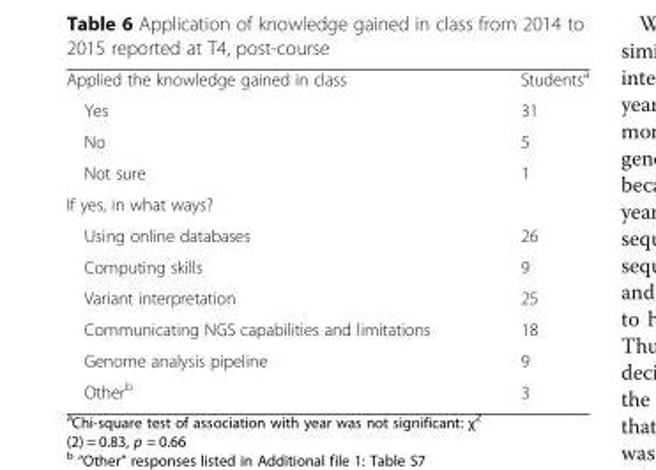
<table><tbody><tr><td>Applied the knowledge gained in class</td><td>Students<sup>a</sup></td></tr><tr><td>Yes</td><td>31</td></tr><tr><td>No</td><td>5</td></tr><tr><td>Not sure</td><td>1</td></tr><tr><td colspan="2">If yes, in what ways?</td></tr><tr><td>Using online databases</td><td>26</td></tr><tr><td>Computing skills</td><td>9</td></tr><tr><td>Variant interpretation</td><td>25</td></tr><tr><td>Communicating NGS capabilities and limitations</td><td>18</td></tr><tr><td>Genome analysis pipeline</td><td>9</td></tr><tr><td>Other<sup>b</sup></td><td>3</td></tr></tbody></table>